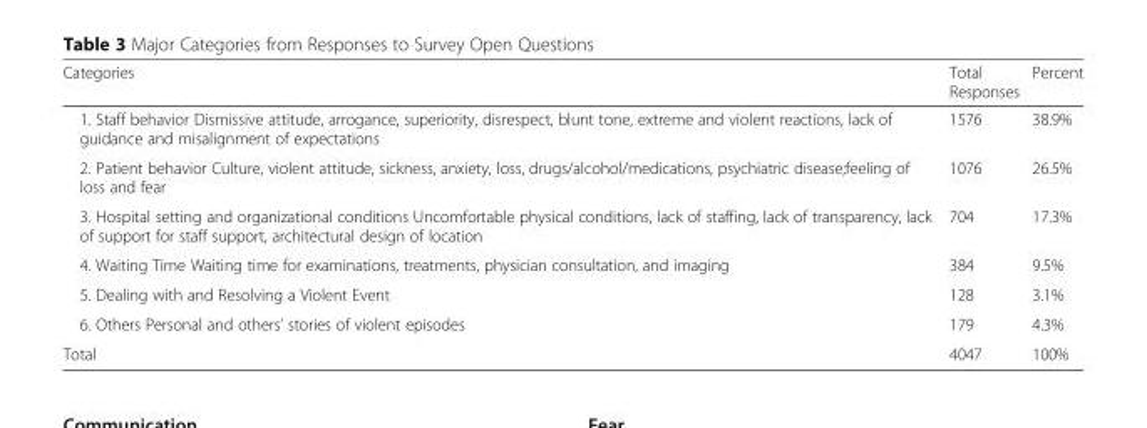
<table><thead><tr><td>Categories</td><td>Total Responses</td><td>Percent</td></tr></thead><tbody><tr><td>1. Staff behavior Dismissive attitude, arrogance, superiority, disrespect, blunt tone, extreme and violent reactions, lack of guidance and misalignment of expectations</td><td>1576</td><td>38.9%</td></tr><tr><td>2. Patient behavior Culture, violent attitude, sickness, anxiety, loss, drugs/alcohol/medications, psychiatric disease;feeling of loss and fear</td><td>1076</td><td>26.5%</td></tr><tr><td>3. Hospital setting and organizational conditions Uncomfortable physical conditions, lack of staffing, lack of transparency, lack of support for staff support, architectural design of location</td><td>704</td><td>17.3%</td></tr><tr><td>4. Waiting Time Waiting time for examinations, treatments, physician consultation, and imaging</td><td>384</td><td>9.5%</td></tr><tr><td>5. Dealing with and Resolving a Violent Event</td><td>128</td><td>3.1%</td></tr><tr><td>6. Others Personal and others’ stories of violent episodes</td><td>179</td><td>4.3%</td></tr><tr><td>Total</td><td>4047</td><td>100%</td></tr></tbody></table>